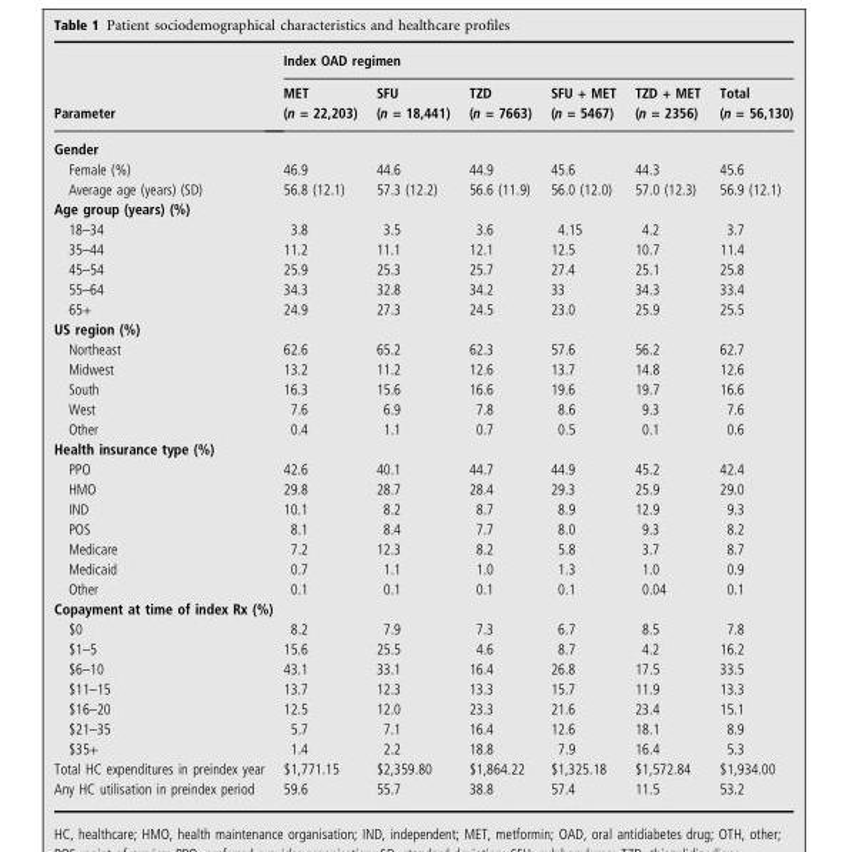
<table><thead><tr><td rowspan="2">Parameter</td><td colspan="6">Index OAD regimen</td></tr><tr><td>MET (n = 22,203)</td><td>SFU (n = 18,441)</td><td>TZD (n = 7663)</td><td>SFU + MET (n = 5467)</td><td>TZD + MET (n = 2356)</td><td>Total (n = 56,130)</td></tr></thead><tbody><tr><td colspan="7">Gender</td></tr><tr><td>Female (%)</td><td>46.9</td><td>44.6</td><td>44.9</td><td>45.6</td><td>44.3</td><td>45.6</td></tr><tr><td>Average age (years) (SD)</td><td>56.8 (12.1)</td><td>57.3 (12.2)</td><td>56.6 (11.9)</td><td>56.0 (12.0)</td><td>57.0 (12.3)</td><td>56.9 (12.1)</td></tr><tr><td colspan="7">Age group (years) (%)</td></tr><tr><td>18–34</td><td>3.8</td><td>3.5</td><td>3.6</td><td>4.15</td><td>4.2</td><td>3.7</td></tr><tr><td>35–44</td><td>11.2</td><td>11.1</td><td>12.1</td><td>12.5</td><td>10.7</td><td>11.4</td></tr><tr><td>45–54</td><td>25.9</td><td>25.3</td><td>25.7</td><td>27.4</td><td>25.1</td><td>25.8</td></tr><tr><td>55–64</td><td>34.3</td><td>32.8</td><td>34.2</td><td>33</td><td>34.3</td><td>33.4</td></tr><tr><td>65+</td><td>24.9</td><td>27.3</td><td>24.5</td><td>23.0</td><td>25.9</td><td>25.5</td></tr><tr><td colspan="7">US region (%)</td></tr><tr><td>Northeast</td><td>62.6</td><td>65.2</td><td>62.3</td><td>57.6</td><td>56.2</td><td>62.7</td></tr><tr><td>Midwest</td><td>13.2</td><td>11.2</td><td>12.6</td><td>13.7</td><td>14.8</td><td>12.6</td></tr><tr><td>South</td><td>16.3</td><td>15.6</td><td>16.6</td><td>19.6</td><td>19.7</td><td>16.6</td></tr><tr><td>West</td><td>7.6</td><td>6.9</td><td>7.8</td><td>8.6</td><td>9.3</td><td>7.6</td></tr><tr><td>Other</td><td>0.4</td><td>1.1</td><td>0.7</td><td>0.5</td><td>0.1</td><td>0.6</td></tr><tr><td colspan="7">Health insurance type (%)</td></tr><tr><td>PPO</td><td>42.6</td><td>40.1</td><td>44.7</td><td>44.9</td><td>45.2</td><td>42.4</td></tr><tr><td>HMO</td><td>29.8</td><td>28.7</td><td>28.4</td><td>29.3</td><td>25.9</td><td>29.0</td></tr><tr><td>IND</td><td>10.1</td><td>8.2</td><td>8.7</td><td>8.9</td><td>12.9</td><td>9.3</td></tr><tr><td>POS</td><td>8.1</td><td>8.4</td><td>7.7</td><td>8.0</td><td>9.3</td><td>8.2</td></tr><tr><td>Medicare</td><td>7.2</td><td>12.3</td><td>8.2</td><td>5.8</td><td>3.7</td><td>8.7</td></tr><tr><td>Medicaid</td><td>0.7</td><td>1.1</td><td>1.0</td><td>1.3</td><td>1.0</td><td>0.9</td></tr><tr><td>Other</td><td>0.1</td><td>0.1</td><td>0.1</td><td>0.1</td><td>0.04</td><td>0.1</td></tr><tr><td colspan="7">Copayment at time of index Rx (%)</td></tr><tr><td>$0</td><td>8.2</td><td>7.9</td><td>7.3</td><td>6.7</td><td>8.5</td><td>7.8</td></tr><tr><td>$1–5</td><td>15.6</td><td>25.5</td><td>4.6</td><td>8.7</td><td>4.2</td><td>16.2</td></tr><tr><td>$6–10</td><td>43.1</td><td>33.1</td><td>16.4</td><td>26.8</td><td>17.5</td><td>33.5</td></tr><tr><td>$11–15</td><td>13.7</td><td>12.3</td><td>13.3</td><td>15.7</td><td>11.9</td><td>13.3</td></tr><tr><td>$16–20</td><td>12.5</td><td>12.0</td><td>23.3</td><td>21.6</td><td>23.4</td><td>15.1</td></tr><tr><td>$21–35</td><td>5.7</td><td>7.1</td><td>16.4</td><td>12.6</td><td>18.1</td><td>8.9</td></tr><tr><td>$35+</td><td>1.4</td><td>2.2</td><td>18.8</td><td>7.9</td><td>16.4</td><td>5.3</td></tr><tr><td>Total HC expenditures in preindex year</td><td>$1,771.15</td><td>$2,359.80</td><td>$1,864.22</td><td>$1,325.18</td><td>$1,572.84</td><td>$1,934.00</td></tr><tr><td>Any HC utilisation in preindex period</td><td>59.6</td><td>55.7</td><td>38.8</td><td>57.4</td><td>11.5</td><td>53.2</td></tr></tbody></table>